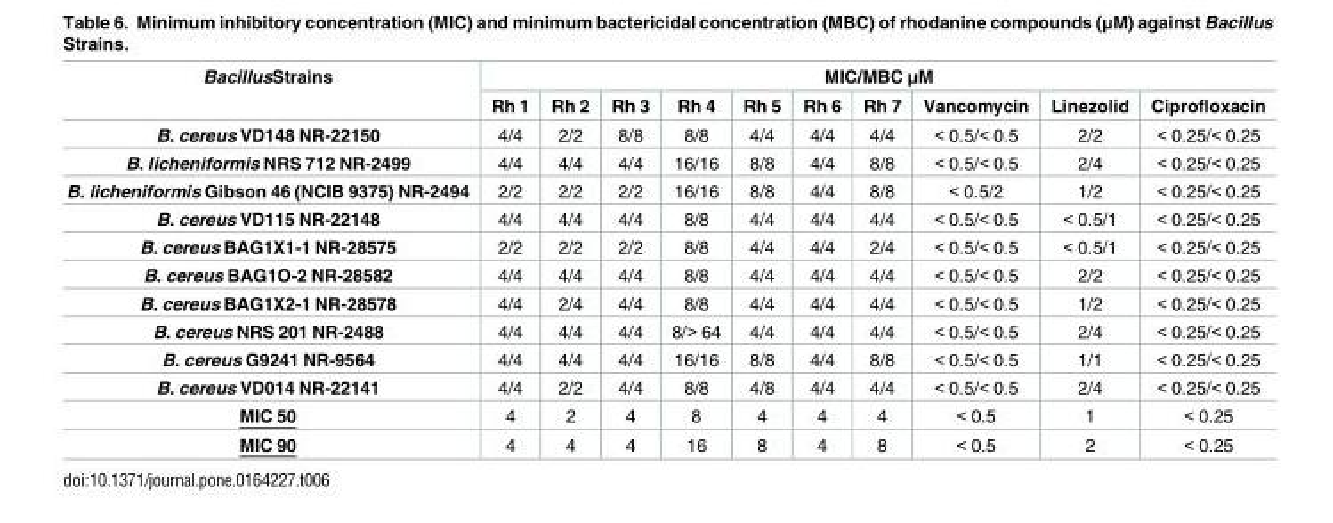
<table><thead><tr><td rowspan="2">BacillusStrains</td><td colspan="10">MIC/MBC μM</td></tr><tr><td>Rh 1</td><td>Rh 2</td><td>Rh 3</td><td>Rh 4</td><td>Rh 5</td><td>Rh 6</td><td>Rh 7</td><td>Vancomycin</td><td>Linezolid</td><td>Ciprofloxacin</td></tr></thead><tbody><tr><td>B. cereus VD148 NR-22150</td><td>4/4</td><td>2/2</td><td>8/8</td><td>8/8</td><td>4/4</td><td>4/4</td><td>4/4</td><td>&lt; 0.5/&lt; 0.5</td><td>2/2</td><td>&lt; 0.25/&lt; 0.25</td></tr><tr><td>B. licheniformis NRS 712 NR-2499</td><td>4/4</td><td>4/4</td><td>4/4</td><td>16/16</td><td>8/8</td><td>4/4</td><td>8/8</td><td>&lt; 0.5/&lt; 0.5</td><td>2/4</td><td>&lt; 0.25/&lt; 0.25</td></tr><tr><td>B. licheniformis Gibson 46 (NCIB 9375) NR-2494</td><td>2/2</td><td>2/2</td><td>2/2</td><td>16/16</td><td>8/8</td><td>4/4</td><td>8/8</td><td>&lt; 0.5/2</td><td>1/2</td><td>&lt; 0.25/&lt; 0.25</td></tr><tr><td>B. cereus VD115 NR-22148</td><td>4/4</td><td>4/4</td><td>4/4</td><td>8/8</td><td>4/4</td><td>4/4</td><td>4/4</td><td>&lt; 0.5/&lt; 0.5</td><td>&lt; 0.5/1</td><td>&lt; 0.25/&lt; 0.25</td></tr><tr><td>B. cereus BAG1X1-1 NR-28575</td><td>2/2</td><td>2/2</td><td>2/2</td><td>8/8</td><td>4/4</td><td>4/4</td><td>2/4</td><td>&lt; 0.5/&lt; 0.5</td><td>&lt; 0.5/1</td><td>&lt; 0.25/&lt; 0.25</td></tr><tr><td>B. cereus BAG1O-2 NR-28582</td><td>4/4</td><td>4/4</td><td>4/4</td><td>8/8</td><td>4/4</td><td>4/4</td><td>4/4</td><td>&lt; 0.5/&lt; 0.5</td><td>2/2</td><td>&lt; 0.25/&lt; 0.25</td></tr><tr><td>B. cereus BAG1X2-1 NR-28578</td><td>4/4</td><td>2/4</td><td>4/4</td><td>8/8</td><td>4/4</td><td>4/4</td><td>4/4</td><td>&lt; 0.5/&lt; 0.5</td><td>1/2</td><td>&lt; 0.25/&lt; 0.25</td></tr><tr><td>B. cereus NRS 201 NR-2488</td><td>4/4</td><td>4/4</td><td>4/4</td><td>8/&gt; 64</td><td>4/4</td><td>4/4</td><td>4/4</td><td>&lt; 0.5/&lt; 0.5</td><td>2/4</td><td>&lt; 0.25/&lt; 0.25</td></tr><tr><td>B. cereus G9241 NR-9564</td><td>4/4</td><td>4/4</td><td>4/4</td><td>16/16</td><td>8/8</td><td>4/4</td><td>8/8</td><td>&lt; 0.5/&lt; 0.5</td><td>1/1</td><td>&lt; 0.25/&lt; 0.25</td></tr><tr><td>B. cereus VD014 NR-22141</td><td>4/4</td><td>2/2</td><td>4/4</td><td>8/8</td><td>4/8</td><td>4/4</td><td>4/4</td><td>&lt; 0.5/&lt; 0.5</td><td>2/4</td><td>&lt; 0.25/&lt; 0.25</td></tr><tr><td>MIC 50</td><td>4</td><td>2</td><td>4</td><td>8</td><td>4</td><td>4</td><td>4</td><td>&lt; 0.5</td><td>1</td><td>&lt; 0.25</td></tr><tr><td>MIC 90</td><td>4</td><td>4</td><td>4</td><td>16</td><td>8</td><td>4</td><td>8</td><td>&lt; 0.5</td><td>2</td><td>&lt; 0.25</td></tr></tbody></table>